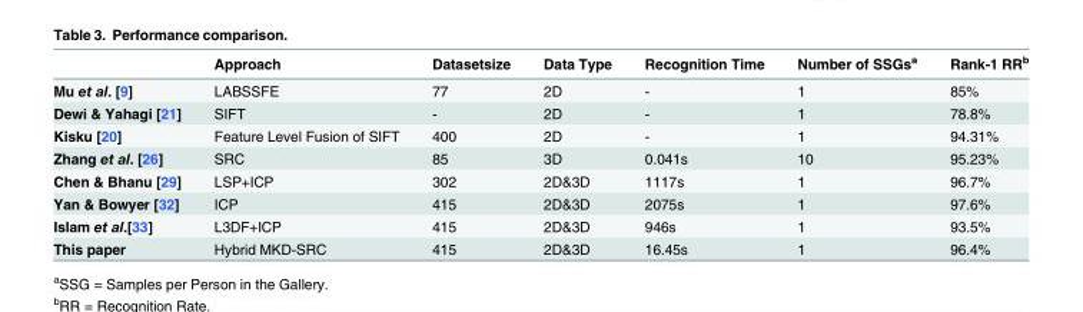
<table><thead><tr><td></td><td>Approach</td><td>Datasetsize</td><td>Data Type</td><td>Recognition Time</td><td>Number of SSGs<sup>a</sup></td><td>Rank-1 RR<sup>b</sup></td></tr></thead><tbody><tr><td>Mu et al. [9]</td><td>LABSSFE</td><td>77</td><td>2D</td><td>-</td><td>1</td><td>85%</td></tr><tr><td>Dewi &amp; Yahagi [21]</td><td>SIFT</td><td>-</td><td>2D</td><td>-</td><td>1</td><td>78.8%</td></tr><tr><td>Kisku [20]</td><td>Feature Level Fusion of SIFT</td><td>400</td><td>2D</td><td>-</td><td>1</td><td>94.31%</td></tr><tr><td>Zhang et al. [26]</td><td>SRC</td><td>85</td><td>3D</td><td>0.041s</td><td>10</td><td>95.23%</td></tr><tr><td>Chen &amp; Bhanu [29]</td><td>LSP+ICP</td><td>302</td><td>2D&amp;3D</td><td>1117s</td><td>1</td><td>96.7%</td></tr><tr><td>Yan &amp; Bowyer [32]</td><td>ICP</td><td>415</td><td>2D&amp;3D</td><td>2075s</td><td>1</td><td>97.6%</td></tr><tr><td>Islam et al.[33]</td><td>L3DF+ICP</td><td>415</td><td>2D&amp;3D</td><td>946s</td><td>1</td><td>93.5%</td></tr><tr><td>This paper</td><td>Hybrid MKD-SRC</td><td>415</td><td>2D&amp;3D</td><td>16.45s</td><td>1</td><td>96.4%</td></tr></tbody></table>